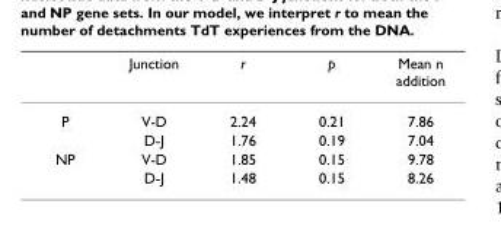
<table><thead><tr><td></td><td>Junction</td><td>r</td><td>p</td><td>Mean n addition</td></tr></thead><tbody><tr><td rowspan="2">P</td><td>V-D</td><td>2.24</td><td>0.21</td><td>7.86</td></tr><tr><td>D-J</td><td>1.76</td><td>0.19</td><td>7.04</td></tr><tr><td rowspan="2">NP</td><td>V-D</td><td>1.85</td><td>0.15</td><td>9.78</td></tr><tr><td>D-J</td><td>1.48</td><td>0.15</td><td>8.26</td></tr></tbody></table>